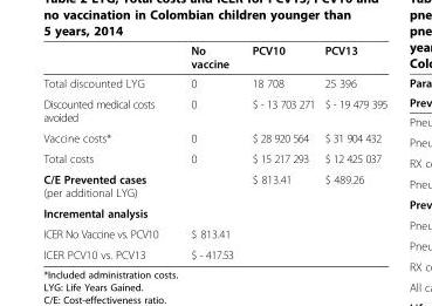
<table><thead><tr><td></td><td>No vaccine</td><td>PCV10</td><td>PCV13</td></tr></thead><tbody><tr><td>Total discounted LYG</td><td>0</td><td>18 708</td><td>25 396</td></tr><tr><td>Discounted medical costs avoided</td><td>0</td><td>$ - 13 703 271</td><td>$ - 19 479 395</td></tr><tr><td>Vaccine costs*</td><td>0</td><td>$ 28 920 564</td><td>$ 31 904 432</td></tr><tr><td>Total costs</td><td>0</td><td>$ 15 217 293</td><td>$ 12 425 037</td></tr><tr><td>C/E Prevented cases (per additional LYG)</td><td></td><td>$ 813.41</td><td>$ 489.26</td></tr><tr><td colspan="4">Incremental analysis</td></tr><tr><td>ICER No Vaccine vs. PCV10</td><td>$ 813.41</td><td></td><td></td></tr><tr><td>ICER PCV10 vs. PCV13</td><td>$ - 417.53</td><td></td><td></td></tr></tbody></table>